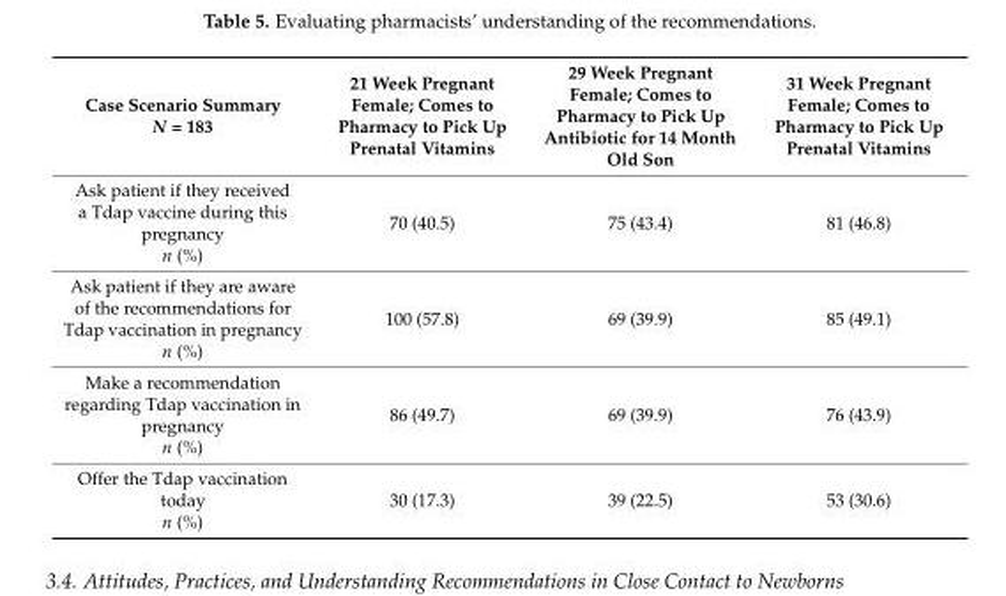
<table><thead><tr><td>Case Scenario Summary N = 183</td><td>21 Week Pregnant Female; Comes to Pharmacy to Pick Up Prenatal Vitamins</td><td>29 Week Pregnant Female; Comes to Pharmacy to Pick Up Antibiotic for 14 Month Old Son</td><td>31 Week Pregnant Female; Comes to Pharmacy to Pick Up Prenatal Vitamins</td></tr></thead><tbody><tr><td>Ask patient if they received a Tdap vaccine during this pregnancy n (%)</td><td>70 (40.5)</td><td>75 (43.4)</td><td>81 (46.8)</td></tr><tr><td>Ask patient if they are aware of the recommendations for Tdap vaccination in pregnancy n (%)</td><td>100 (57.8)</td><td>69 (39.9)</td><td>85 (49.1)</td></tr><tr><td>Make a recommendation regarding Tdap vaccination in pregnancy n (%)</td><td>86 (49.7)</td><td>69 (39.9)</td><td>76 (43.9)</td></tr><tr><td>Offer the Tdap vaccination today n (%)</td><td>30 (17.3)</td><td>39 (22.5)</td><td>53 (30.6)</td></tr></tbody></table>